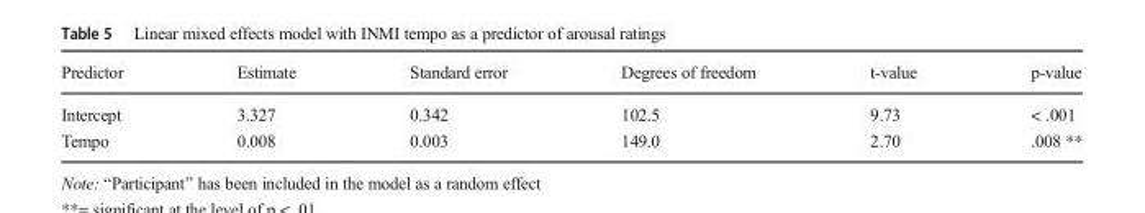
<table><thead><tr><td>Predictor</td><td>Estimate</td><td>Standard error</td><td>Degrees of freedom</td><td>t-value</td><td>p-value</td></tr></thead><tbody><tr><td>Intercept</td><td>3.327</td><td>0.342</td><td>102.5</td><td>9.73</td><td>&lt; .001</td></tr><tr><td>Tempo</td><td>0.008</td><td>0.003</td><td>149.0</td><td>2.70</td><td>.008 **</td></tr></tbody></table>